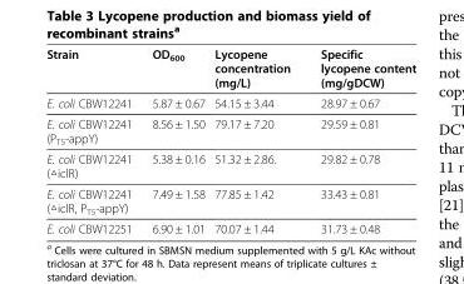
<table><thead><tr><td>Strain</td><td>OD<sub>600</sub></td><td>Lycopene concentration (mg/L)</td><td>Specific lycopene content (mg/gDCW)</td></tr></thead><tbody><tr><td>E. coli CBW12241</td><td>5.87 ± 0.67</td><td>54.15 ± 3.44</td><td>28.97 ± 0.67</td></tr><tr><td>E. coli CBW12241 (P<sub>T5</sub>-appY)</td><td>8.56 ± 1.50</td><td>79.17 ± 7.20</td><td>29.59 ± 0.81</td></tr><tr><td>E. coli CBW12241 (△iclR)</td><td>5.38 ± 0.16</td><td>51.32 ± 2.86.</td><td>29.82 ± 0.78</td></tr><tr><td>E. coli CBW12241 (△iclR, P<sub>T5</sub>-appY)</td><td>7.49 ± 1.58</td><td>77.85 ± 1.42</td><td>33.43 ± 0.81</td></tr><tr><td>E. coli CBW12251</td><td>6.90 ± 1.01</td><td>70.07 ± 1.44</td><td>31.73 ± 0.48</td></tr></tbody></table>